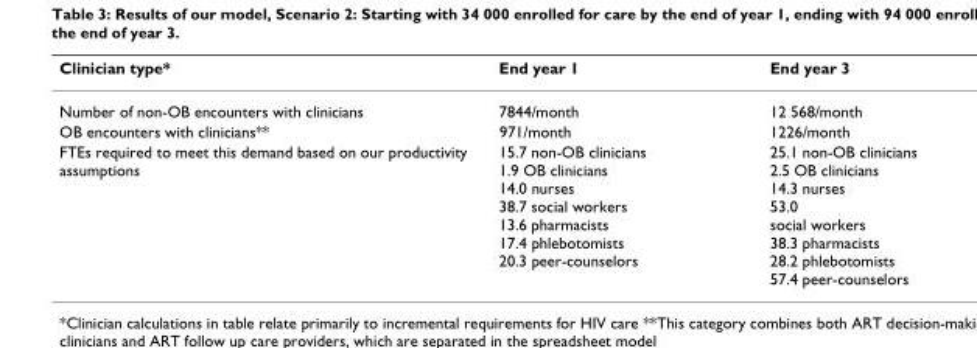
<table><thead><tr><td>Clinician type*</td><td>End year 1</td><td>End year 3</td></tr></thead><tbody><tr><td>Number of non-OB encounters with clinicians</td><td>7844/month</td><td>12 568/month</td></tr><tr><td>OB encounters with clinicians**</td><td>971/month</td><td>1226/month</td></tr><tr><td>FTEs required to meet this demand based on our productivity assumptions</td><td>15.7 non-OB clinicians 1.9 OB clinicians 14.0 nurses 38.7 social workers 13.6 pharmacists 17.4 phlebotomists 20.3 peer-counselors</td><td>25.1 non-OB clinicians 2.5 OB clinicians 14.3 nurses 53.0 social workers 38.3 pharmacists 28.2 phlebotomists 57.4 peer-counselors</td></tr></tbody></table>